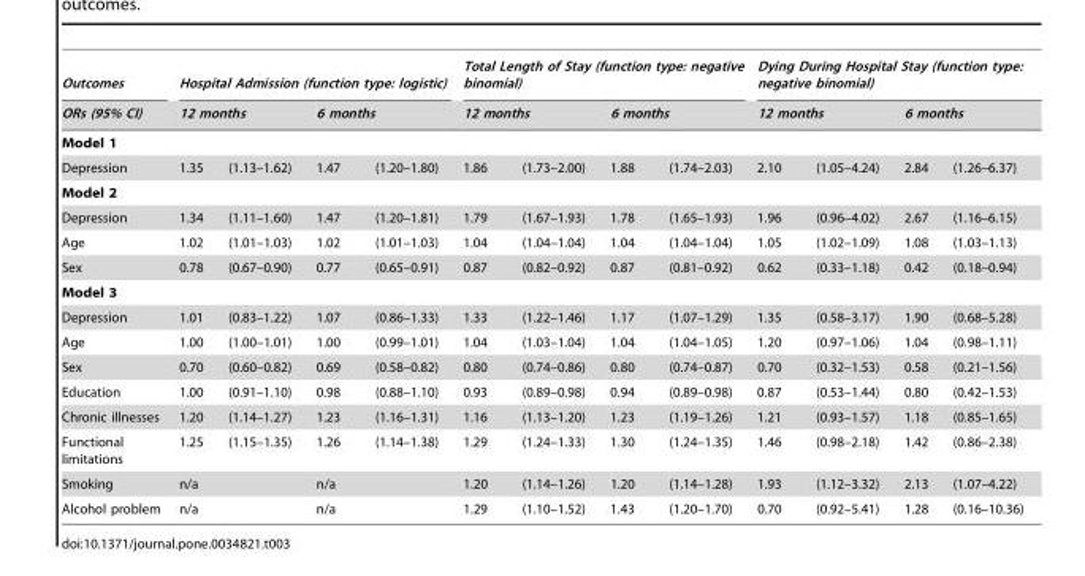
<table><thead><tr><td rowspan="3">Outcomes ORs (95% CI) Model 1</td><td colspan="4">Hospital Admission (function type: logistic)</td><td colspan="4">Total Length of Stay (function type: negative binomial)</td><td colspan="4">Dying During Hospital Stay (function type: negative binomial)</td></tr><tr><td colspan="2">12 months</td><td colspan="2">6 months</td><td colspan="2">12 months</td><td colspan="2">6 months</td><td colspan="2">12 months</td><td colspan="2">6 months</td></tr><tr><td></td><td></td><td></td><td></td><td></td><td></td><td></td><td></td><td></td><td></td><td></td><td></td></tr></thead><tbody><tr><td>Depression</td><td>1.35</td><td>(1.13–1.62)</td><td>1.47</td><td>(1.20–1.80)</td><td>1.86</td><td>(1.73–2.00)</td><td>1.88</td><td>(1.74–2.03)</td><td>2.10</td><td>(1.05–4.24)</td><td>2.84</td><td>(1.26–6.37)</td></tr><tr><td colspan="13">Model 2</td></tr><tr><td>Depression</td><td>1.34</td><td>(1.11–1.60)</td><td>1.47</td><td>(1.20–1.81)</td><td>1.79</td><td>(1.67–1.93)</td><td>1.78</td><td>(1.65–1.93)</td><td>1.96</td><td>(0.96–4.02)</td><td>2.67</td><td>(1.16–6.15)</td></tr><tr><td>Age</td><td>1.02</td><td>(1.01–1.03)</td><td>1.02</td><td>(1.01–1.03)</td><td>1.04</td><td>(1.04–1.04)</td><td>1.04</td><td>(1.04–1.04)</td><td>1.05</td><td>(1.02–1.09)</td><td>1.08</td><td>(1.03–1.13)</td></tr><tr><td>Sex</td><td>0.78</td><td>(0.67–0.90)</td><td>0.77</td><td>(0.65–0.91)</td><td>0.87</td><td>(0.82–0.92)</td><td>0.87</td><td>(0.81–0.92)</td><td>0.62</td><td>(0.33–1.18)</td><td>0.42</td><td>(0.18–0.94)</td></tr><tr><td colspan="13">Model 3</td></tr><tr><td>Depression</td><td>1.01</td><td>(0.83–1.22)</td><td>1.07</td><td>(0.86–1.33)</td><td>1.33</td><td>(1.22–1.46)</td><td>1.17</td><td>(1.07–1.29)</td><td>1.35</td><td>(0.58–3.17)</td><td>1.90</td><td>(0.68–5.28)</td></tr><tr><td>Age</td><td>1.00</td><td>(1.00–1.01)</td><td>1.00</td><td>(0.99–1.01)</td><td>1.04</td><td>(1.03–1.04)</td><td>1.04</td><td>(1.04–1.05)</td><td>1.20</td><td>(0.97–1.06)</td><td>1.04</td><td>(0.98–1.11)</td></tr><tr><td>Sex</td><td>0.70</td><td>(0.60–0.82)</td><td>0.69</td><td>(0.58–0.82)</td><td>0.80</td><td>(0.74–0.86)</td><td>0.80</td><td>(0.74–0.87)</td><td>0.70</td><td>(0.32–1.53)</td><td>0.58</td><td>(0.21–1.56)</td></tr><tr><td>Education</td><td>1.00</td><td>(0.91–1.10)</td><td>0.98</td><td>(0.88–1.10)</td><td>0.93</td><td>(0.89–0.98)</td><td>0.94</td><td>(0.89–0.98)</td><td>0.87</td><td>(0.53–1.44)</td><td>0.80</td><td>(0.42–1.53)</td></tr><tr><td>Chronic illnesses</td><td>1.20</td><td>(1.14–1.27)</td><td>1.23</td><td>(1.16–1.31)</td><td>1.16</td><td>(1.13–1.20)</td><td>1.23</td><td>(1.19–1.26)</td><td>1.21</td><td>(0.93–1.57)</td><td>1.18</td><td>(0.85–1.65)</td></tr><tr><td>Functional limitations</td><td>1.25</td><td>(1.15–1.35)</td><td>1.26</td><td>(1.14–1.38)</td><td>1.29</td><td>(1.24–1.33)</td><td>1.30</td><td>(1.24–1.35)</td><td>1.46</td><td>(0.98–2.18)</td><td>1.42</td><td>(0.86–2.38)</td></tr><tr><td>Smoking</td><td colspan="2">n/a</td><td colspan="2">n/a</td><td>1.20</td><td>(1.14–1.26)</td><td>1.20</td><td>(1.14–1.28)</td><td>1.93</td><td>(1.12–3.32)</td><td>2.13</td><td>(1.07–4.22)</td></tr><tr><td>Alcohol problem</td><td colspan="2">n/a</td><td colspan="2">n/a</td><td>1.29</td><td>(1.10–1.52)</td><td>1.43</td><td>(1.20–1.70)</td><td>0.70</td><td>(0.92–5.41)</td><td>1.28</td><td>(0.16–10.36)</td></tr></tbody></table>